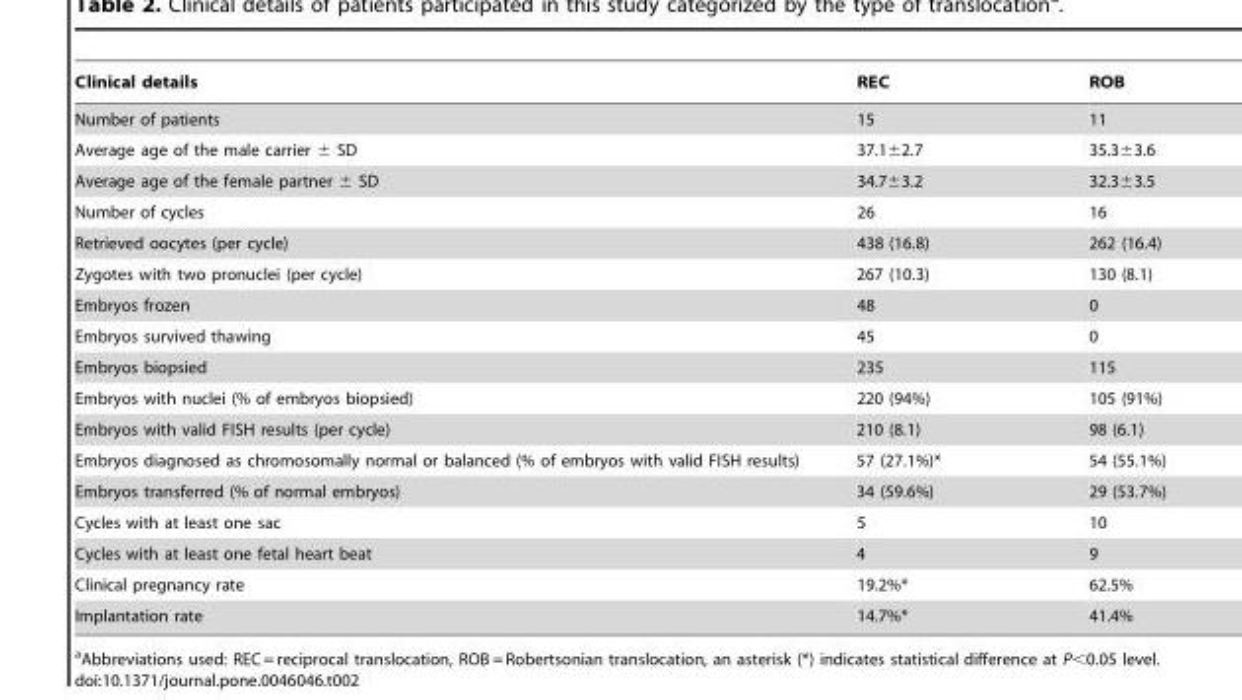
<table><thead><tr><td>Clinical details</td><td>REC</td><td>ROB</td></tr></thead><tbody><tr><td>Number of patients</td><td>15</td><td>11</td></tr><tr><td>Average age of the male carrier ± SD</td><td>37.1±2.7</td><td>35.3±3.6</td></tr><tr><td>Average age of the female partner ± SD</td><td>34.7±3.2</td><td>32.3±3.5</td></tr><tr><td>Number of cycles</td><td>26</td><td>16</td></tr><tr><td>Retrieved oocytes (per cycle)</td><td>438 (16.8)</td><td>262 (16.4)</td></tr><tr><td>Zygotes with two pronuclei (per cycle)</td><td>267 (10.3)</td><td>130 (8.1)</td></tr><tr><td>Embryos frozen</td><td>48</td><td>0</td></tr><tr><td>Embryos survived thawing</td><td>45</td><td>0</td></tr><tr><td>Embryos biopsied</td><td>235</td><td>115</td></tr><tr><td>Embryos with nuclei (% of embryos biopsied)</td><td>220 (94%)</td><td>105 (91%)</td></tr><tr><td>Embryos with valid FISH results (per cycle)</td><td>210 (8.1)</td><td>98 (6.1)</td></tr><tr><td>Embryos diagnosed as chromosomally normal or balanced (% of embryos with valid FISH results)</td><td>57 (27.1%)*</td><td>54 (55.1%)</td></tr><tr><td>Embryos transferred (% of normal embryos)</td><td>34 (59.6%)</td><td>29 (53.7%)</td></tr><tr><td>Cycles with at least one sac</td><td>5</td><td>10</td></tr><tr><td>Cycles with at least one fetal heart beat</td><td>4</td><td>9</td></tr><tr><td>Clinical pregnancy rate</td><td>19.2%*</td><td>62.5%</td></tr><tr><td>Implantation rate</td><td>14.7%*</td><td>41.4%</td></tr></tbody></table>